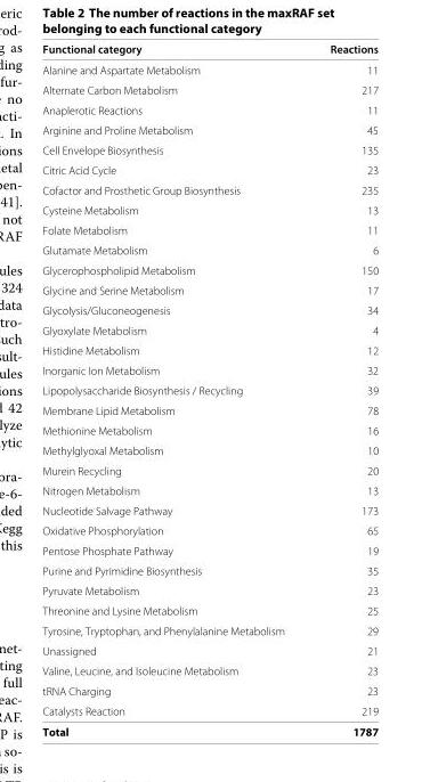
<table><thead><tr><td>Functional category</td><td>Reactions</td></tr></thead><tbody><tr><td>Alanine and Aspartate Metabolism</td><td>11</td></tr><tr><td>Alternate Carbon Metabolism</td><td>217</td></tr><tr><td>Anaplerotic Reactions</td><td>11</td></tr><tr><td>Arginine and Proline Metabolism</td><td>45</td></tr><tr><td>Cell Envelope Biosynthesis</td><td>135</td></tr><tr><td>Citric Acid Cycle</td><td>23</td></tr><tr><td>Cofactor and Prosthetic Group Biosynthesis</td><td>235</td></tr><tr><td>Cysteine Metabolism</td><td>13</td></tr><tr><td>Folate Metabolism</td><td>11</td></tr><tr><td>Glutamate Metabolism</td><td>6</td></tr><tr><td>Glycerophospholipid Metabolism</td><td>150</td></tr><tr><td>Glycine and Serine Metabolism</td><td>17</td></tr><tr><td>Glycolysis/Gluconeogenesis</td><td>34</td></tr><tr><td>Glyoxylate Metabolism</td><td>4</td></tr><tr><td>Histidine Metabolism</td><td>12</td></tr><tr><td>Inorganic Ion Metabolism</td><td>32</td></tr><tr><td>Lipopolysaccharide Biosynthesis / Recycling</td><td>39</td></tr><tr><td>Membrane Lipid Metabolism</td><td>78</td></tr><tr><td>Methionine Metabolism</td><td>16</td></tr><tr><td>Methylglyoxal Metabolism</td><td>10</td></tr><tr><td>Murein Recycling</td><td>20</td></tr><tr><td>Nitrogen Metabolism</td><td>13</td></tr><tr><td>Nucleotide Salvage Pathway</td><td>173</td></tr><tr><td>Oxidative Phosphorylation</td><td>65</td></tr><tr><td>Pentose Phosphate Pathway</td><td>19</td></tr><tr><td>Purine and Pyrimidine Biosynthesis</td><td>35</td></tr><tr><td>Pyruvate Metabolism</td><td>23</td></tr><tr><td>Threonine and Lysine Metabolism</td><td>25</td></tr><tr><td>Tyrosine, Tryptophan, and Phenylalanine Metabolism</td><td>29</td></tr><tr><td>Unassigned</td><td>21</td></tr><tr><td>Valine, Leucine, and Isoleucine Metabolism</td><td>23</td></tr><tr><td>tRNA Charging</td><td>23</td></tr><tr><td>Catalysts Reaction</td><td>219</td></tr><tr><td>Total</td><td>1787</td></tr></tbody></table>